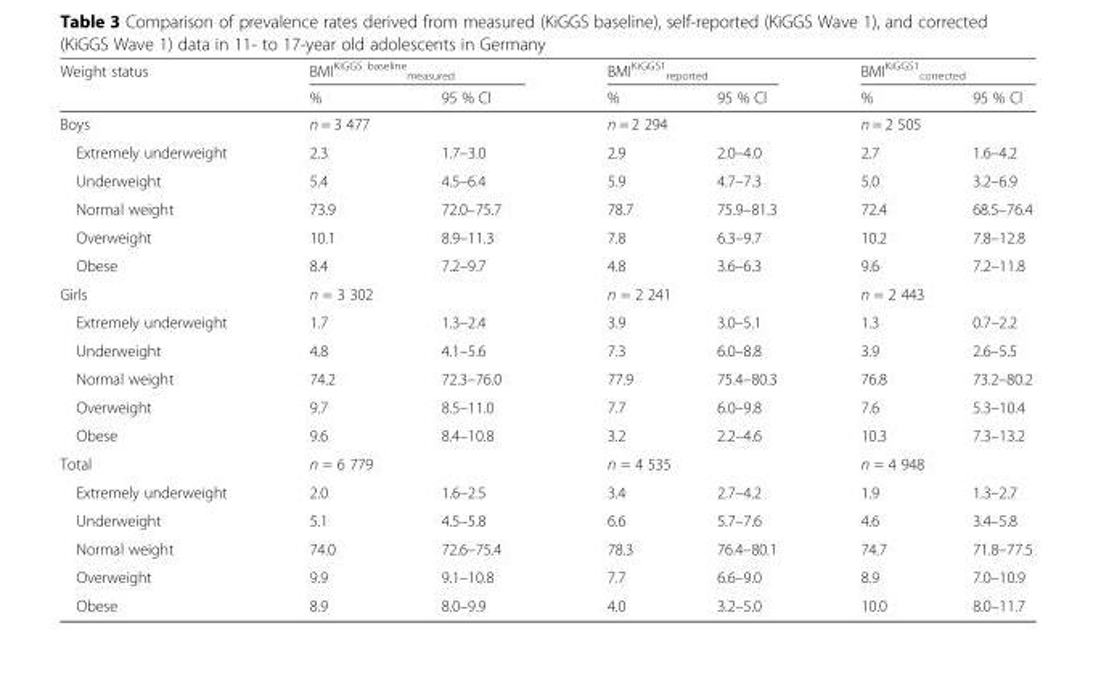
<table><thead><tr><td rowspan="2">Weight status</td><td colspan="2">BMI<sup>KiGGS baseline</sup> <sub>measured</sub></td><td colspan="2">BMI<sup>KiGGS1</sup> <sub>reported</sub></td><td colspan="2">BMI<sup>KiGGS1</sup> <sub>corrected</sub></td></tr><tr><td>%</td><td>95 % Cl</td><td>%</td><td>95 % Cl</td><td>%</td><td>95 % Cl</td></tr></thead><tbody><tr><td>Boys</td><td colspan="2">n = 3 477</td><td colspan="2">n = 2 294</td><td colspan="2">n = 2 505</td></tr><tr><td>Extremely underweight</td><td>2.3</td><td>1.7–3.0</td><td>2.9</td><td>2.0–4.0</td><td>2.7</td><td>1.6–4.2</td></tr><tr><td>Underweight</td><td>5.4</td><td>4.5–6.4</td><td>5.9</td><td>4.7–7.3</td><td>5.0</td><td>3.2–6.9</td></tr><tr><td>Normal weight</td><td>73.9</td><td>72.0–75.7</td><td>78.7</td><td>75.9–81.3</td><td>72.4</td><td>68.5–76.4</td></tr><tr><td>Overweight</td><td>10.1</td><td>8.9–11.3</td><td>7.8</td><td>6.3–9.7</td><td>10.2</td><td>7.8–12.8</td></tr><tr><td>Obese</td><td>8.4</td><td>7.2–9.7</td><td>4.8</td><td>3.6–6.3</td><td>9.6</td><td>7.2–11.8</td></tr><tr><td>Girls</td><td colspan="2">n = 3 302</td><td colspan="2">n = 2 241</td><td colspan="2">n = 2 443</td></tr><tr><td>Extremely underweight</td><td>1.7</td><td>1.3–2.4</td><td>3.9</td><td>3.0–5.1</td><td>1.3</td><td>0.7–2.2</td></tr><tr><td>Underweight</td><td>4.8</td><td>4.1–5.6</td><td>7.3</td><td>6.0–8.8</td><td>3.9</td><td>2.6–5.5</td></tr><tr><td>Normal weight</td><td>74.2</td><td>72.3–76.0</td><td>77.9</td><td>75.4–80.3</td><td>76.8</td><td>73.2–80.2</td></tr><tr><td>Overweight</td><td>9.7</td><td>8.5–11.0</td><td>7.7</td><td>6.0–9.8</td><td>7.6</td><td>5.3–10.4</td></tr><tr><td>Obese</td><td>9.6</td><td>8.4–10.8</td><td>3.2</td><td>2.2–4.6</td><td>10.3</td><td>7.3–13.2</td></tr><tr><td>Total</td><td colspan="2">n = 6 779</td><td colspan="2">n = 4 535</td><td colspan="2">n = 4 948</td></tr><tr><td>Extremely underweight</td><td>2.0</td><td>1.6–2.5</td><td>3.4</td><td>2.7–4.2</td><td>1.9</td><td>1.3–2.7</td></tr><tr><td>Underweight</td><td>5.1</td><td>4.5–5.8</td><td>6.6</td><td>5.7–7.6</td><td>4.6</td><td>3.4–5.8</td></tr><tr><td>Normal weight</td><td>74.0</td><td>72.6–75.4</td><td>78.3</td><td>76.4–80.1</td><td>74.7</td><td>71.8–77.5</td></tr><tr><td>Overweight</td><td>9.9</td><td>9.1–10.8</td><td>7.7</td><td>6.6–9.0</td><td>8.9</td><td>7.0–10.9</td></tr><tr><td>Obese</td><td>8.9</td><td>8.0–9.9</td><td>4.0</td><td>3.2–5.0</td><td>10.0</td><td>8.0–11.7</td></tr></tbody></table>